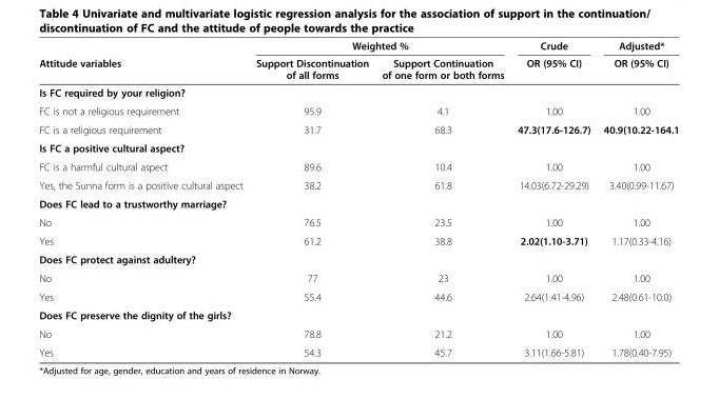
<table><thead><tr><td rowspan="2">Attitude variables</td><td colspan="2">Weighted %</td><td rowspan="2">Crude OR (95% CI)</td><td rowspan="2">Adjusted* OR (95% CI)</td></tr><tr><td>Support Discontinuation of all forms</td><td>Support Continuation of one form or both forms</td></tr></thead><tbody><tr><td colspan="5">Is FC required by your religion?</td></tr><tr><td>FC is not a religious requirement</td><td>95.9</td><td>4.1</td><td>1.00</td><td>1.00</td></tr><tr><td>FC is a religious requirement</td><td>31.7</td><td>68.3</td><td>47.3(17.6-126.7)</td><td>40.9(10.22-164.1</td></tr><tr><td colspan="5">Is FC a positive cultural aspect?</td></tr><tr><td>FC is a harmful cultural aspect</td><td>89.6</td><td>10.4</td><td>1.00</td><td>1.00</td></tr><tr><td>Yes, the Sunna form is a positive cultural aspect</td><td>38.2</td><td>61.8</td><td>14.03(6.72-29.29)</td><td>3.40(0.99-11.67)</td></tr><tr><td colspan="5">Does FC lead to a trustworthy marriage?</td></tr><tr><td>No</td><td>76.5</td><td>23.5</td><td>1.00</td><td>1.00</td></tr><tr><td>Yes</td><td>61.2</td><td>38.8</td><td>2.02(1.10-3.71)</td><td>1.17(0.33-4.16)</td></tr><tr><td colspan="5">Does FC protect against adultery?</td></tr><tr><td>No</td><td>77</td><td>23</td><td>1.00</td><td>1.00</td></tr><tr><td>Yes</td><td>55.4</td><td>44.6</td><td>2.64(1.41-4.96)</td><td>2.48(0.61-10.0)</td></tr><tr><td colspan="5">Does FC preserve the dignity of the girls?</td></tr><tr><td>No</td><td>78.8</td><td>21.2</td><td>1.00</td><td>1.00</td></tr><tr><td>Yes</td><td>54.3</td><td>45.7</td><td>3.11(1.66-5.81)</td><td>1.78(0.40-7.95)</td></tr></tbody></table>